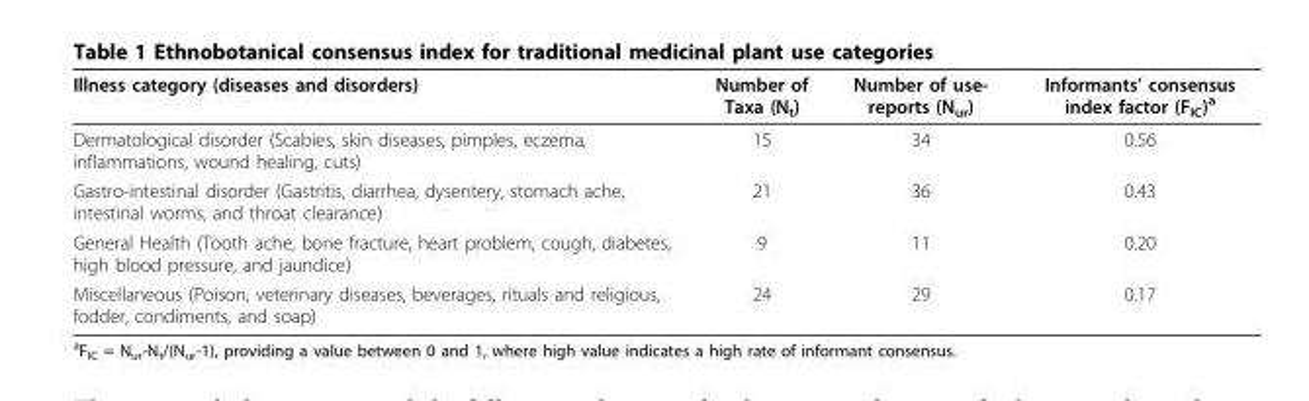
<table><thead><tr><td>Illness category (diseases and disorders)</td><td>Number of Taxa (N<sub>t</sub>)</td><td>Number of use- reports (N<sub>ur</sub>)</td><td>Informants’ consensus index factor (F<sub>IC</sub>)<sup>a</sup></td></tr></thead><tbody><tr><td>Dermatological disorder (Scabies, skin diseases, pimples, eczema, inflammations, wound healing, cuts)</td><td>15</td><td>34</td><td>0.56</td></tr><tr><td>Gastro-intestinal disorder (Gastritis, diarrhea, dysentery, stomach ache, intestinal worms, and throat clearance)</td><td>21</td><td>36</td><td>0.43</td></tr><tr><td>General Health (Tooth ache, bone fracture, heart problem, cough, diabetes, high blood pressure, and jaundice)</td><td>9</td><td>11</td><td>0.20</td></tr><tr><td>Miscellaneous (Poison, veterinary diseases, beverages, rituals and religious, fodder, condiments, and soap)</td><td>24</td><td>29</td><td>0.17</td></tr></tbody></table>